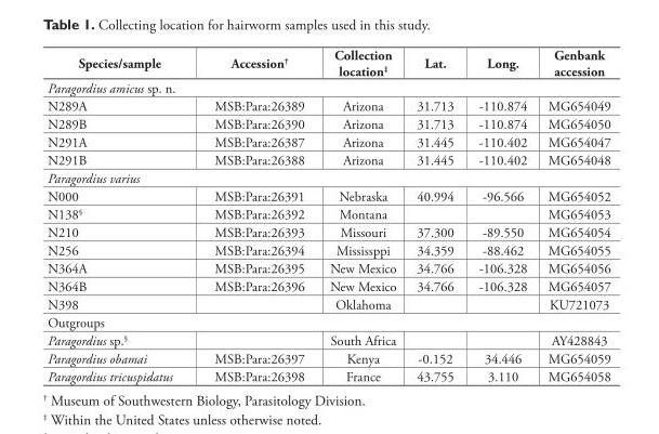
<table><thead><tr><td>Species/sample</td><td>Accession<sup>†</sup></td><td>Collection location<sup>‡</sup></td><td>Lat.</td><td>Long.</td><td>Genbank accession</td></tr></thead><tbody><tr><td colspan="6">Paragordius amicus sp. n.</td></tr><tr><td>N289A</td><td>MSB:Para:26389</td><td>Arizona</td><td>31.713</td><td>-110.874</td><td>MG654049</td></tr><tr><td>N289B</td><td>MSB:Para:26390</td><td>Arizona</td><td>31.713</td><td>-110.874</td><td>MG654050</td></tr><tr><td>N291A</td><td>MSB:Para:26387</td><td>Arizona</td><td>31.445</td><td>-110.402</td><td>MG654047</td></tr><tr><td>N291B</td><td>MSB:Para:26388</td><td>Arizona</td><td>31.445</td><td>-110.402</td><td>MG654048</td></tr><tr><td colspan="6">Paragordius varius</td></tr><tr><td>N000</td><td>MSB:Para:26391</td><td>Nebraska</td><td>40.994</td><td>-96.566</td><td>MG654052</td></tr><tr><td>N138<sup>§</sup></td><td>MSB:Para:26392</td><td>Montana</td><td></td><td></td><td>MG654053</td></tr><tr><td>N210</td><td>MSB:Para:26393</td><td>Missouri</td><td>37.300</td><td>-89.550</td><td>MG654054</td></tr><tr><td>N256</td><td>MSB:Para:26394</td><td>Mississppi</td><td>34.359</td><td>-88.462</td><td>MG654055</td></tr><tr><td>N364A</td><td>MSB:Para:26395</td><td>New Mexico</td><td>34.766</td><td>-106.328</td><td>MG654056</td></tr><tr><td>N364B</td><td>MSB:Para:26396</td><td>New Mexico</td><td>34.766</td><td>-106.328</td><td>MG654057</td></tr><tr><td>N398</td><td></td><td>Oklahoma</td><td></td><td></td><td>KU721073</td></tr><tr><td colspan="6">Outgroups</td></tr><tr><td>Paragordius sp.<sup>§</sup></td><td></td><td>South Africa</td><td></td><td></td><td>AY428843</td></tr><tr><td>Paragordius obamai</td><td>MSB:Para:26397</td><td>Kenya</td><td>-0.152</td><td>34.446</td><td>MG654059</td></tr><tr><td>Paragordius tricuspidatus</td><td>MSB:Para:26398</td><td>France</td><td>43.755</td><td>3.110</td><td>MG654058</td></tr></tbody></table>